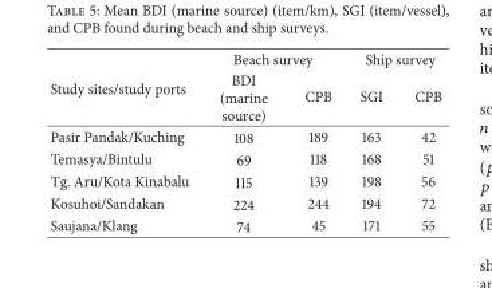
<table><thead><tr><td rowspan="2">Study sites/study ports</td><td colspan="2">Beach survey</td><td colspan="2">Ship survey</td></tr><tr><td>BDI (marine source)</td><td>CPB</td><td>SGI</td><td>CPB</td></tr></thead><tbody><tr><td>Pasir Pandak/Kuching</td><td>108</td><td>189</td><td>163</td><td>42</td></tr><tr><td>Temasya/Bintulu</td><td>69</td><td>118</td><td>168</td><td>51</td></tr><tr><td>Tg. Aru/Kota Kinabalu</td><td>115</td><td>139</td><td>198</td><td>56</td></tr><tr><td>Kosuhoi/Sandakan</td><td>224</td><td>244</td><td>194</td><td>72</td></tr><tr><td>Saujana/Klang</td><td>74</td><td>45</td><td>171</td><td>55</td></tr></tbody></table>